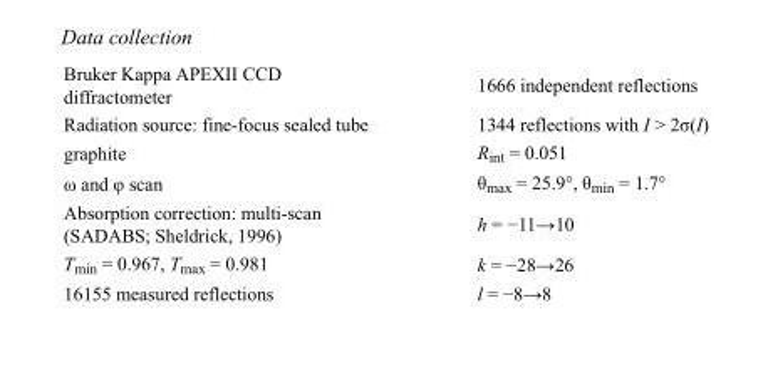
<table><tbody><tr><td>Bruker Kappa APEXII CCD diffractometer</td><td>1666 independent reflections</td></tr><tr><td>Radiation source: fine-focus sealed tube</td><td>1344 reflections with I &gt; 2σ(I)</td></tr><tr><td>graphite</td><td>R<sub>int</sub> = 0.051</td></tr><tr><td>ω and φ scan</td><td>θ<sub>max</sub> = 25.9°, θ<sub>min</sub> = 1.7°</td></tr><tr><td>Absorption correction: multi-scan (SADABS; Sheldrick, 1996)</td><td>h = −11→10</td></tr><tr><td>T<sub>min</sub> = 0.967, T<sub>max</sub> = 0.981</td><td>k = −28→26</td></tr><tr><td>16155 measured reflections</td><td>l = −8→8</td></tr></tbody></table>